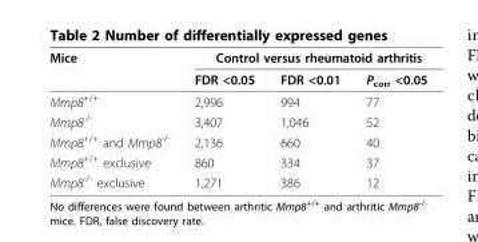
<table><thead><tr><td rowspan="2">Mice</td><td colspan="3">Control versus rheumatoid arthritis</td></tr><tr><td>FDR &lt;0.05</td><td>FDR &lt;0.01</td><td>P<sub>corr</sub> &lt;0.05</td></tr></thead><tbody><tr><td>Mmp8<sup>+/+</sup></td><td>2,996</td><td>994</td><td>77</td></tr><tr><td>Mmp8<sup>-/-</sup></td><td>3,407</td><td>1,046</td><td>52</td></tr><tr><td>Mmp8<sup>+/+</sup> and Mmp8<sup>-/-</sup></td><td>2,136</td><td>660</td><td>40</td></tr><tr><td>Mmp8<sup>+/+</sup> exclusive</td><td>860</td><td>334</td><td>37</td></tr><tr><td>Mmp8<sup>-/-</sup> exclusive</td><td>1,271</td><td>386</td><td>12</td></tr></tbody></table>